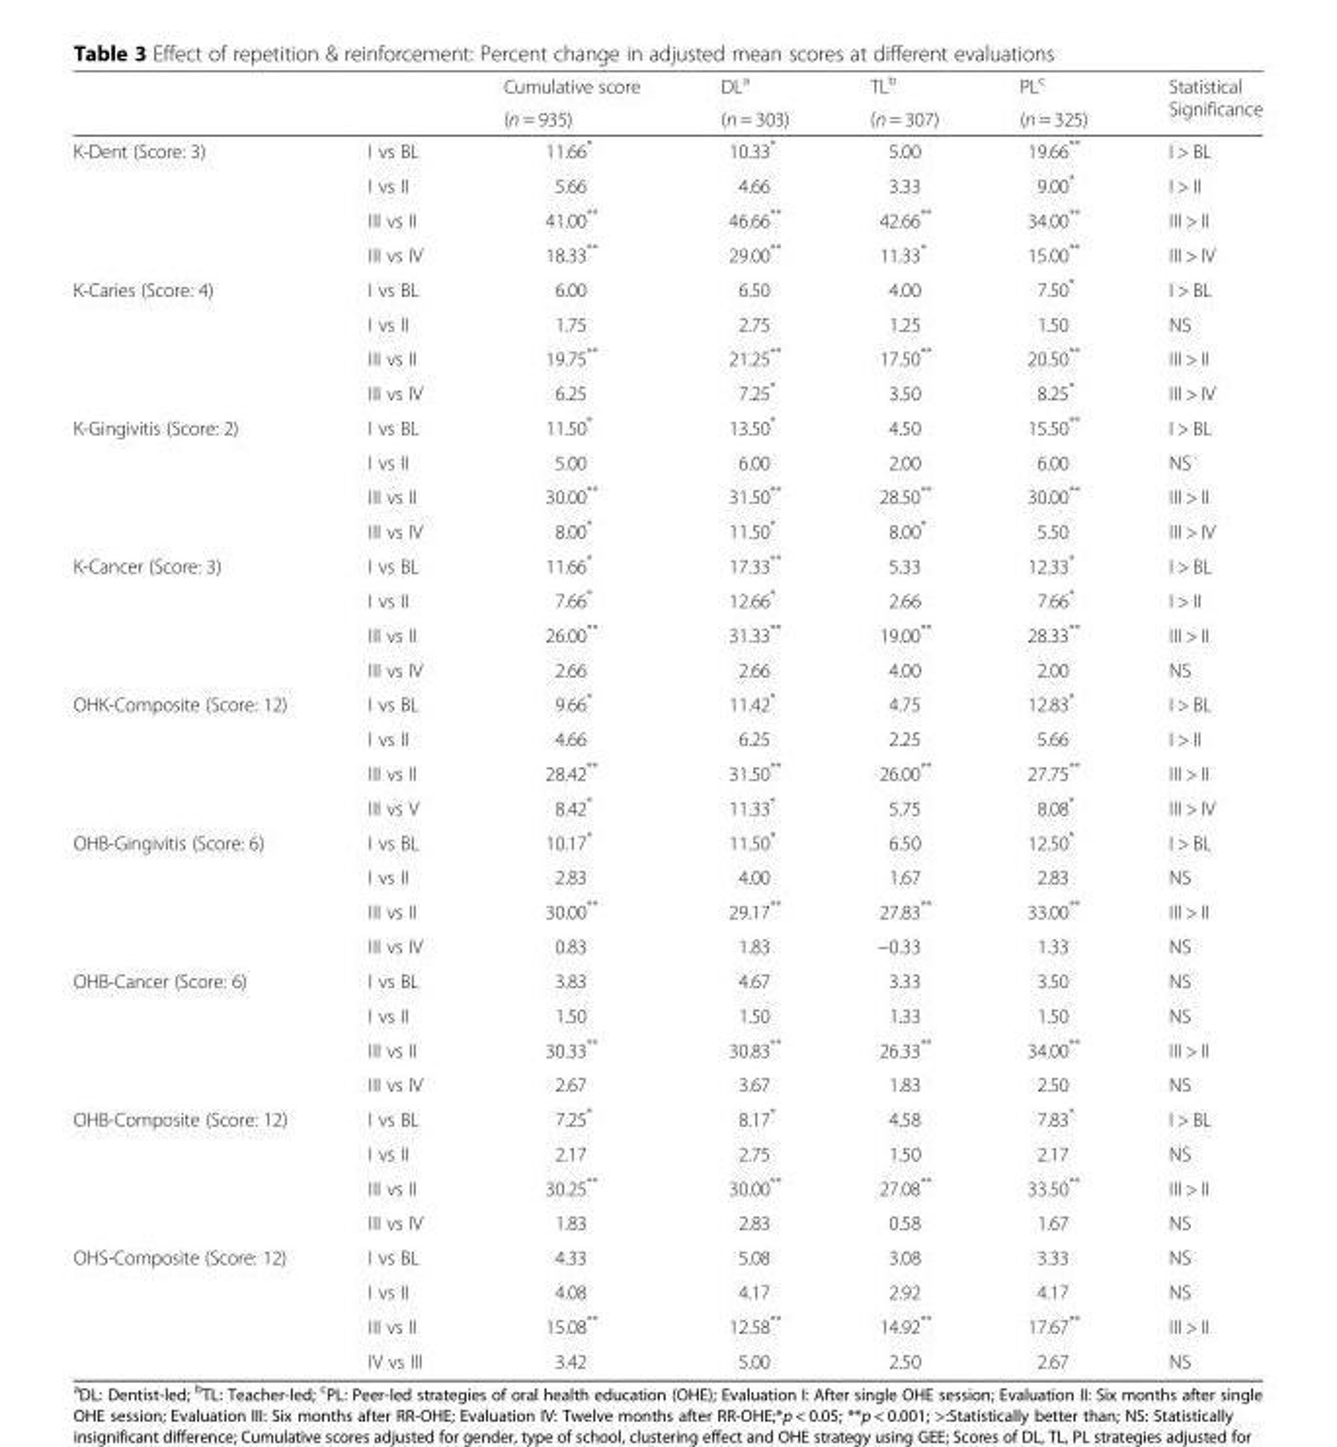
<table><thead><tr><td rowspan="2"></td><td rowspan="2"></td><td rowspan="2">Cumulative score (n = 935)</td><td rowspan="2">DL<sup>a</sup> (n = 303)</td><td rowspan="2">TL<sup>b</sup> (n = 307)</td><td rowspan="2">PL<sup>c</sup> (n = 325)</td><td rowspan="2">Statistical Significance</td></tr><tr></tr></thead><tbody><tr><td rowspan="4">K-Dent (Score: 3)</td><td>I vs BL</td><td>11.66*</td><td>10.33*</td><td>5.00</td><td>19.66**</td><td>I &gt; BL</td></tr><tr><td>I vs II</td><td>5.66</td><td>4.66</td><td>3.33</td><td>9.00*</td><td>I &gt; II</td></tr><tr><td>III vs II</td><td>41.00**</td><td>46.66**</td><td>42.66**</td><td>34.00**</td><td>III &gt; II</td></tr><tr><td>III vs IV</td><td>18.33**</td><td>29.00**</td><td>11.33*</td><td>15.00**</td><td>III &gt; IV</td></tr><tr><td rowspan="4">K-Caries (Score: 4)</td><td>I vs BL</td><td>6.00</td><td>6.50</td><td>4.00</td><td>7.50*</td><td>I &gt; BL</td></tr><tr><td>I vs II</td><td>1.75</td><td>2.75</td><td>1.25</td><td>1.50</td><td>NS</td></tr><tr><td>III vs II</td><td>19.75**</td><td>21.25**</td><td>17.50**</td><td>20.50**</td><td>III &gt; II</td></tr><tr><td>III vs IV</td><td>6.25</td><td>7.25*</td><td>3.50</td><td>8.25*</td><td>III &gt; IV</td></tr><tr><td rowspan="4">K-Gingivitis (Score: 2)</td><td>I vs BL</td><td>11.50*</td><td>13.50*</td><td>4.50</td><td>15.50**</td><td>I &gt; BL</td></tr><tr><td>I vs II</td><td>5.00</td><td>6.00</td><td>2.00</td><td>6.00</td><td>NS</td></tr><tr><td>III vs II</td><td>30.00**</td><td>31.50**</td><td>28.50**</td><td>30.00**</td><td>III &gt; II</td></tr><tr><td>III vs IV</td><td>8.00*</td><td>11.50*</td><td>8.00*</td><td>5.50</td><td>III &gt; IV</td></tr><tr><td rowspan="4">K-Cancer (Score: 3)</td><td>I vs BL</td><td>11.66*</td><td>17.33**</td><td>5.33</td><td>12.33*</td><td>I &gt; BL</td></tr><tr><td>I vs II</td><td>7.66*</td><td>12.66*</td><td>2.66</td><td>7.66*</td><td>I &gt; II</td></tr><tr><td>III vs II</td><td>26.00**</td><td>31.33**</td><td>19.00**</td><td>28.33**</td><td>III &gt; II</td></tr><tr><td>III vs IV</td><td>2.66</td><td>2.66</td><td>4.00</td><td>2.00</td><td>NS</td></tr><tr><td rowspan="4">OHK-Composite (Score: 12)</td><td>I vs BL</td><td>9.66*</td><td>11.42*</td><td>4.75</td><td>12.83*</td><td>I &gt; BL</td></tr><tr><td>I vs II</td><td>4.66</td><td>6.25</td><td>2.25</td><td>5.66</td><td>I &gt; II</td></tr><tr><td>III vs II</td><td>28.42**</td><td>31.50**</td><td>26.00**</td><td>27.75**</td><td>III &gt; II</td></tr><tr><td>III vs V</td><td>8.42*</td><td>11.33*</td><td>5.75</td><td>8.08*</td><td>III &gt; IV</td></tr><tr><td rowspan="4">OHB-Gingivitis (Score: 6)</td><td>I vs BL</td><td>10.17*</td><td>11.50*</td><td>6.50</td><td>12.50*</td><td>I &gt; BL</td></tr><tr><td>I vs II</td><td>2.83</td><td>4.00</td><td>1.67</td><td>2.83</td><td>NS</td></tr><tr><td>III vs II</td><td>30.00**</td><td>29.17**</td><td>27.83**</td><td>33.00**</td><td>III &gt; II</td></tr><tr><td>III vs IV</td><td>0.83</td><td>1.83</td><td>−0.33</td><td>1.33</td><td>NS</td></tr><tr><td rowspan="4">OHB-Cancer (Score: 6)</td><td>I vs BL</td><td>3.83</td><td>4.67</td><td>3.33</td><td>3.50</td><td>NS</td></tr><tr><td>I vs II</td><td>1.50</td><td>1.50</td><td>1.33</td><td>1.50</td><td>NS</td></tr><tr><td>III vs II</td><td>30.33**</td><td>30.83**</td><td>26.33**</td><td>34.00**</td><td>III &gt; II</td></tr><tr><td>III vs IV</td><td>2.67</td><td>3.67</td><td>1.83</td><td>2.50</td><td>NS</td></tr><tr><td rowspan="4">OHB-Composite (Score: 12)</td><td>I vs BL</td><td>7.25*</td><td>8.17*</td><td>4.58</td><td>7.83*</td><td>I &gt; BL</td></tr><tr><td>I vs II</td><td>2.17</td><td>2.75</td><td>1.50</td><td>2.17</td><td>NS</td></tr><tr><td>III vs II</td><td>30.25**</td><td>30.00**</td><td>27.08**</td><td>33.50**</td><td>III &gt; II</td></tr><tr><td>III vs IV</td><td>1.83</td><td>2.83</td><td>0.58</td><td>1.67</td><td>NS</td></tr><tr><td rowspan="4">OHS-Composite (Score: 12)</td><td>I vs BL</td><td>4.33</td><td>5.08</td><td>3.08</td><td>3.33</td><td>NS</td></tr><tr><td>I vs II</td><td>4.08</td><td>4.17</td><td>2.92</td><td>4.17</td><td>NS</td></tr><tr><td>III vs II</td><td>15.08**</td><td>12.58**</td><td>14.92**</td><td>17.67**</td><td>III &gt; II</td></tr><tr><td>IV vs III</td><td>3.42</td><td>5.00</td><td>2.50</td><td>2.67</td><td>NS</td></tr></tbody></table>